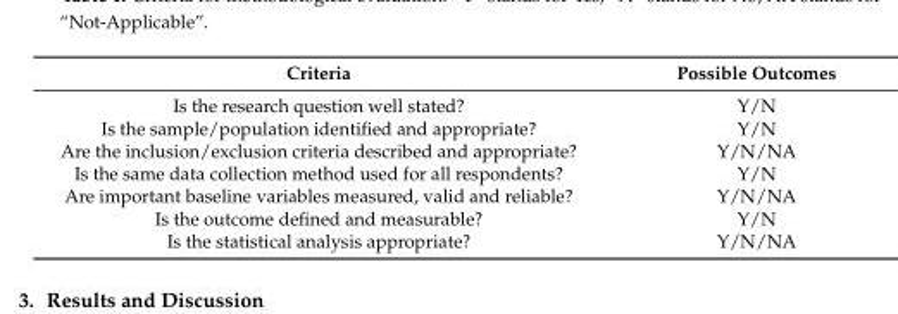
<table><thead><tr><td>Criteria</td><td>Possible Outcomes</td></tr></thead><tbody><tr><td>Is the research question well stated?</td><td>Y/N</td></tr><tr><td>Is the sample/population identified and appropriate?</td><td>Y/N</td></tr><tr><td>Are the inclusion/exclusion criteria described and appropriate?</td><td>Y/N/NA</td></tr><tr><td>Is the same data collection method used for all respondents?</td><td>Y/N</td></tr><tr><td>Are important baseline variables measured, valid and reliable?</td><td>Y/N/NA</td></tr><tr><td>Is the outcome defined and measurable?</td><td>Y/N</td></tr><tr><td>Is the statistical analysis appropriate?</td><td>Y/N/NA</td></tr></tbody></table>